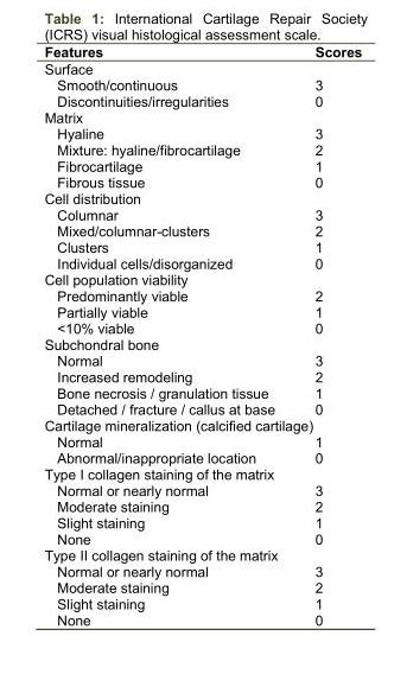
<table><thead><tr><td>Features</td><td>Scores</td></tr></thead><tbody><tr><td colspan="2">Surface</td></tr><tr><td>Smooth/continuous</td><td>3</td></tr><tr><td>Discontinuities/irregularities</td><td>0</td></tr><tr><td colspan="2">Matrix</td></tr><tr><td>Hyaline</td><td>3</td></tr><tr><td>Mixture: hyaline/fibrocartilage</td><td>2</td></tr><tr><td>Fibrocartilage</td><td>1</td></tr><tr><td>Fibrous tissue</td><td>0</td></tr><tr><td colspan="2">Cell distribution</td></tr><tr><td>Columnar</td><td>3</td></tr><tr><td>Mixed/columnar-clusters</td><td>2</td></tr><tr><td>Clusters</td><td>1</td></tr><tr><td>Individual cells/disorganized</td><td>0</td></tr><tr><td colspan="2">Cell population viability</td></tr><tr><td>Predominantly viable</td><td>2</td></tr><tr><td>Partially viable</td><td>1</td></tr><tr><td>&lt;10% viable</td><td>0</td></tr><tr><td colspan="2">Subchondral bone</td></tr><tr><td>Normal</td><td>3</td></tr><tr><td>Increased remodeling</td><td>2</td></tr><tr><td>Bone necrosis / granulation tissue</td><td>1</td></tr><tr><td>Detached / fracture / callus at base</td><td>0</td></tr><tr><td colspan="2">Cartilage mineralization (calcified cartilage)</td></tr><tr><td>Normal</td><td>1</td></tr><tr><td>Abnormal/inappropriate location</td><td>0</td></tr><tr><td colspan="2">Type I collagen staining of the matrix</td></tr><tr><td>Normal or nearly normal</td><td>3</td></tr><tr><td>Moderate staining</td><td>2</td></tr><tr><td>Slight staining</td><td>1</td></tr><tr><td>None</td><td>0</td></tr><tr><td colspan="2">Type II collagen staining of the matrix</td></tr><tr><td>Normal or nearly normal</td><td>3</td></tr><tr><td>Moderate staining</td><td>2</td></tr><tr><td>Slight staining</td><td>1</td></tr><tr><td>None</td><td>0</td></tr></tbody></table>